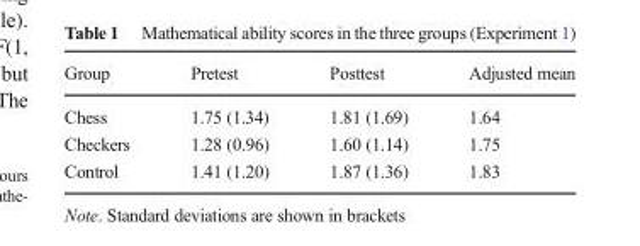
<table><thead><tr><td>Group</td><td>Pretest</td><td>Posttest</td><td>Adjusted mean</td></tr></thead><tbody><tr><td>Chess</td><td>1.75 (1.34)</td><td>1.81 (1.69)</td><td>1.64</td></tr><tr><td>Checkers</td><td>1.28 (0.96)</td><td>1.60 (1.14)</td><td>1.75</td></tr><tr><td>Control</td><td>1.41 (1.20)</td><td>1.87 (1.36)</td><td>1.83</td></tr></tbody></table>